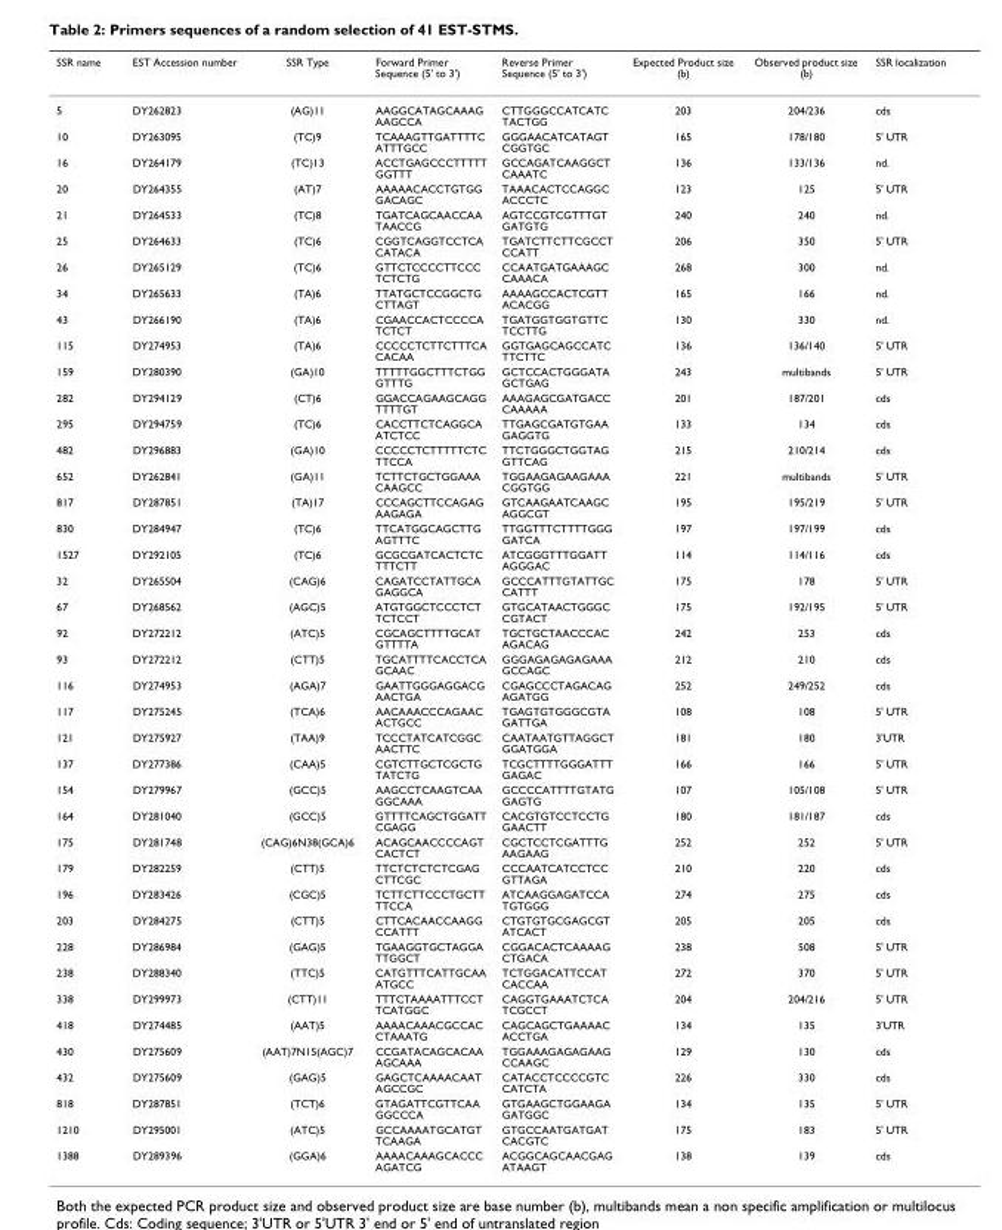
<table><thead><tr><td>SSR name</td><td>EST Accession number</td><td>SSR Type</td><td>Forward Primer Sequence (5&#x27; to 3&#x27;)</td><td>Reverse Primer Sequence (5&#x27; to 3&#x27;)</td><td>Expected Product size (b)</td><td>Observed product size (b)</td><td>SSR localization</td></tr></thead><tbody><tr><td>5</td><td>DY262823</td><td>(AG)11</td><td>AAGGCATAGCAAAG AAGCCA</td><td>CTTGGGCCATCATC TACTGG</td><td>203</td><td>204/236</td><td>cds</td></tr><tr><td>10</td><td>DY263095</td><td>(TC)9</td><td>TCAAAGTTGATTTTC ATTTGCC</td><td>GGGAACATCATAGT CGGTGC</td><td>165</td><td>178/180</td><td>5&#x27; UTR</td></tr><tr><td>16</td><td>DY264179</td><td>(TC)13</td><td>ACCTGAGCCCTTTTT GGTTT</td><td>GCCAGATCAAGGCT CAAATC</td><td>136</td><td>133/136</td><td>nd.</td></tr><tr><td>20</td><td>DY264355</td><td>(AT)7</td><td>AAAAACACCTGTGG GACAGC</td><td>TAAACACTCCAGGC ACCCTC</td><td>123</td><td>125</td><td>5&#x27; UTR</td></tr><tr><td>21</td><td>DY264533</td><td>(TC)8</td><td>TGATCAGCAACCAA TAACCG</td><td>AGTCCGTCGTTTGT GATGTG</td><td>240</td><td>240</td><td>nd.</td></tr><tr><td>25</td><td>DY264633</td><td>(TC)6</td><td>CGGTCAGGTCCTCA CATACA</td><td>TGATCTTCTTCGCCT CCATT</td><td>206</td><td>350</td><td>5&#x27; UTR</td></tr><tr><td>26</td><td>DY265129</td><td>(TC)6</td><td>GTTCTCCCCTTCCC TCTCTG</td><td>CCAATGATGAAAGC CAAACA</td><td>268</td><td>300</td><td>nd.</td></tr><tr><td>34</td><td>DY265633</td><td>(TA)6</td><td>TTATGCTCCGGCTG CTTAGT</td><td>AAAAGCCACTCGTT ACACGG</td><td>165</td><td>166</td><td>nd.</td></tr><tr><td>43</td><td>DY266190</td><td>(TA)6</td><td>CGAACCACTCCCCA TCTCT</td><td>TGATGGTGGTGTTC TCCTTG</td><td>130</td><td>330</td><td>nd.</td></tr><tr><td>115</td><td>DY274953</td><td>(TA)6</td><td>CCCCCTCTTCTTTCA CACAA</td><td>GGTGAGCAGCCATC TTCTTC</td><td>136</td><td>136/140</td><td>5&#x27; UTR</td></tr><tr><td>159</td><td>DY280390</td><td>(GA)10</td><td>TTTTTGGCTTTCTGG GTTTG</td><td>GCTCCACTGGGATA GCTGAG</td><td>243</td><td>multibands</td><td>5&#x27; UTR</td></tr><tr><td>282</td><td>DY294129</td><td>(CT)6</td><td>GGACCAGAAGCAGG TTTTGT</td><td>AAAGAGCGATGACC CAAAAA</td><td>201</td><td>187/201</td><td>cds</td></tr><tr><td>295</td><td>DY294759</td><td>(TC)6</td><td>CACCTTCTCAGGCA ATCTCC</td><td>TTGAGCGATGTGAA GAGGTG</td><td>133</td><td>134</td><td>cds</td></tr><tr><td>482</td><td>DY296883</td><td>(GA)10</td><td>CCCCCTCTTTTTCTC TTCCA</td><td>TTCTGGGCTGGTAG GTTCAG</td><td>215</td><td>210/214</td><td>cds</td></tr><tr><td>652</td><td>DY262841</td><td>(GA)11</td><td>TCTTCTGCTGGAAA CAAGCC</td><td>TGGAAGAGAAGAAA CGGTGG</td><td>221</td><td>multibands</td><td>5&#x27; UTR</td></tr><tr><td>817</td><td>DY287851</td><td>(TA)17</td><td>CCCAGCTTCCAGAG AAGAGA</td><td>GTCAAGAATCAAGC AGGCGT</td><td>195</td><td>195/219</td><td>5&#x27; UTR</td></tr><tr><td>830</td><td>DY284947</td><td>(TC)6</td><td>TTCATGGCAGCTTG AGTTTC</td><td>TTGGTTTCTTTTGGG GATCA</td><td>197</td><td>197/199</td><td>cds</td></tr><tr><td>1527</td><td>DY292105</td><td>(TC)6</td><td>GCGCGATCACTCTC TTTCTT</td><td>ATCGGGTTTGGATT AGGGAC</td><td>114</td><td>114/116</td><td>cds</td></tr><tr><td>32</td><td>DY265504</td><td>(CAG)6</td><td>CAGATCCTATTGCA GAGGCA</td><td>GCCCATTTGTATTGC CATTT</td><td>175</td><td>178</td><td>5&#x27; UTR</td></tr><tr><td>67</td><td>DY268562</td><td>(AGC)5</td><td>ATGTGGCTCCCTCT TCTCCT</td><td>GTGCATAACTGGGC CGTACT</td><td>175</td><td>192/195</td><td>5&#x27; UTR</td></tr><tr><td>92</td><td>DY272212</td><td>(ATC)5</td><td>CGCAGCTTTTGCAT GTTTTA</td><td>TGCTGCTAACCCAC AGACAG</td><td>242</td><td>253</td><td>cds</td></tr><tr><td>93</td><td>DY272212</td><td>(CTT)5</td><td>TGCATTTTCACCTCA GCAAC</td><td>GGGAGAGAGAGAAA GCCAGC</td><td>212</td><td>210</td><td>cds</td></tr><tr><td>116</td><td>DY274953</td><td>(AGA)7</td><td>GAATTGGGAGGACG AACTGA</td><td>CGAGCCCTAGACAG AGATGG</td><td>252</td><td>249/252</td><td>cds</td></tr><tr><td>117</td><td>DY275245</td><td>(TCA)6</td><td>AACAAACCCAGAAC ACTGCC</td><td>TGAGTGTGGGCGTA GATTGA</td><td>108</td><td>108</td><td>5&#x27; UTR</td></tr><tr><td>121</td><td>DY275927</td><td>(TAA)9</td><td>TCCCTATCATCGGC AACTTC</td><td>CAATAATGTTAGGCT GGATGGA</td><td>181</td><td>180</td><td>3&#x27;UTR</td></tr><tr><td>137</td><td>DY277386</td><td>(CAA)5</td><td>CGTCTTGCTCGCTG TATCTG</td><td>TCGCTTTTGGGATTT GAGAC</td><td>166</td><td>166</td><td>5&#x27; UTR</td></tr><tr><td>154</td><td>DY279967</td><td>(GCC)5</td><td>AAGCCTCAAGTCAA GGCAAA</td><td>GCCCCATTTTGTATG GAGTG</td><td>107</td><td>105/108</td><td>5&#x27; UTR</td></tr><tr><td>164</td><td>DY281040</td><td>(GCC)5</td><td>GTTTTCAGCTGGATT CGAGG</td><td>CACGTGTCCTCCTG GAACTT</td><td>180</td><td>181/187</td><td>cds</td></tr><tr><td>175</td><td>DY281748</td><td>(CAG)6N38(GCA)6</td><td>ACAGCAACCCCAGT CACTCT</td><td>CGCTCCTCGATTTG AAGAAG</td><td>252</td><td>252</td><td>5&#x27; UTR</td></tr><tr><td>179</td><td>DY282259</td><td>(CTT)5</td><td>TTCTCTCTCTCGAG CTTCGC</td><td>CCCAATCATCCTCC GTTAGA</td><td>210</td><td>220</td><td>cds</td></tr><tr><td>196</td><td>DY283426</td><td>(CGC)5</td><td>TCTTCTTCCCTGCTT TTCCA</td><td>ATCAAGGAGATCCA TGTGGG</td><td>274</td><td>275</td><td>cds</td></tr><tr><td>203</td><td>DY284275</td><td>(CTT)5</td><td>CTTCACAACCAAGG CCATTT</td><td>CTGTGTGCGAGCGT ATCACT</td><td>205</td><td>205</td><td>cds</td></tr><tr><td>228</td><td>DY286984</td><td>(GAG)5</td><td>TGAAGGTGCTAGGA TTGGCT</td><td>CGGACACTCAAAAG CTGACA</td><td>238</td><td>508</td><td>5&#x27; UTR</td></tr><tr><td>238</td><td>DY288340</td><td>(TTC)5</td><td>CATGTTTCATTGCAA ATGCC</td><td>TCTGGACATTCCAT CACCAA</td><td>272</td><td>370</td><td>5&#x27; UTR</td></tr><tr><td>338</td><td>DY299973</td><td>(CTT)11</td><td>TTTCTAAAATTTCCT TCATGGC</td><td>CAGGTGAAATCTCA TCGCCT</td><td>204</td><td>204/216</td><td>5&#x27; UTR</td></tr><tr><td>418</td><td>DY274485</td><td>(AAT)5</td><td>AAAACAAACGCCAC CTAAATG</td><td>CAGCAGCTGAAAAC ACCTGA</td><td>134</td><td>135</td><td>3&#x27;UTR</td></tr><tr><td>430</td><td>DY275609</td><td>(AAT)7N15(AGC)7</td><td>CCGATACAGCACAA AGCAAA</td><td>TGGAAAGAGAGAAG CCAAGC</td><td>129</td><td>130</td><td>cds</td></tr><tr><td>432</td><td>DY275609</td><td>(GAG)5</td><td>GAGCTCAAAACAAT AGCCGC</td><td>CATACCTCCCCGTC CATCTA</td><td>226</td><td>330</td><td>cds</td></tr><tr><td>818</td><td>DY287851</td><td>(TCT)6</td><td>GTAGATTCGTTCAA GGCCCA</td><td>GTGAAGCTGGAAGA GATGGC</td><td>134</td><td>135</td><td>5&#x27; UTR</td></tr><tr><td>1210</td><td>DY295001</td><td>(ATC)5</td><td>GCCAAAATGCATGT TCAAGA</td><td>GTGCCAATGATGAT CACGTC</td><td>175</td><td>183</td><td>5&#x27; UTR</td></tr><tr><td>1388</td><td>DY289396</td><td>(GGA)6</td><td>AAAACAAAGCACCC AGATCG</td><td>ACGGCAGCAACGAG ATAAGT</td><td>138</td><td>139</td><td>cds</td></tr></tbody></table>